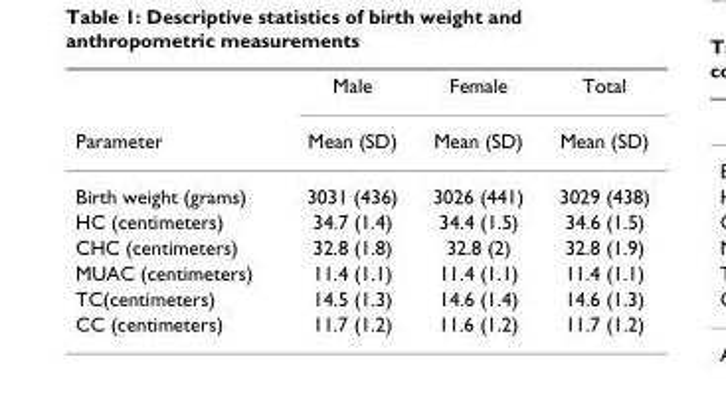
<table><thead><tr><td rowspan="2">Parameter</td><td rowspan="2">Male Mean (SD)</td><td rowspan="2">Female Mean (SD)</td><td rowspan="2">Total Mean (SD)</td></tr><tr></tr></thead><tbody><tr><td>Birth weight (grams)</td><td>3031 (436)</td><td>3026 (441)</td><td>3029 (438)</td></tr><tr><td>HC (centimeters)</td><td>34.7 (1.4)</td><td>34.4 (1.5)</td><td>34.6 (1.5)</td></tr><tr><td>CHC (centimeters)</td><td>32.8 (1.8)</td><td>32.8 (2)</td><td>32.8 (1.9)</td></tr><tr><td>MUAC (centimeters)</td><td>11.4 (1.1)</td><td>11.4 (1.1)</td><td>11.4 (1.1)</td></tr><tr><td>TC(centimeters)</td><td>14.5 (1.3)</td><td>14.6 (1.4)</td><td>14.6 (1.3)</td></tr><tr><td>CC (centimeters)</td><td>11.7 (1.2)</td><td>11.6 (1.2)</td><td>11.7 (1.2)</td></tr></tbody></table>